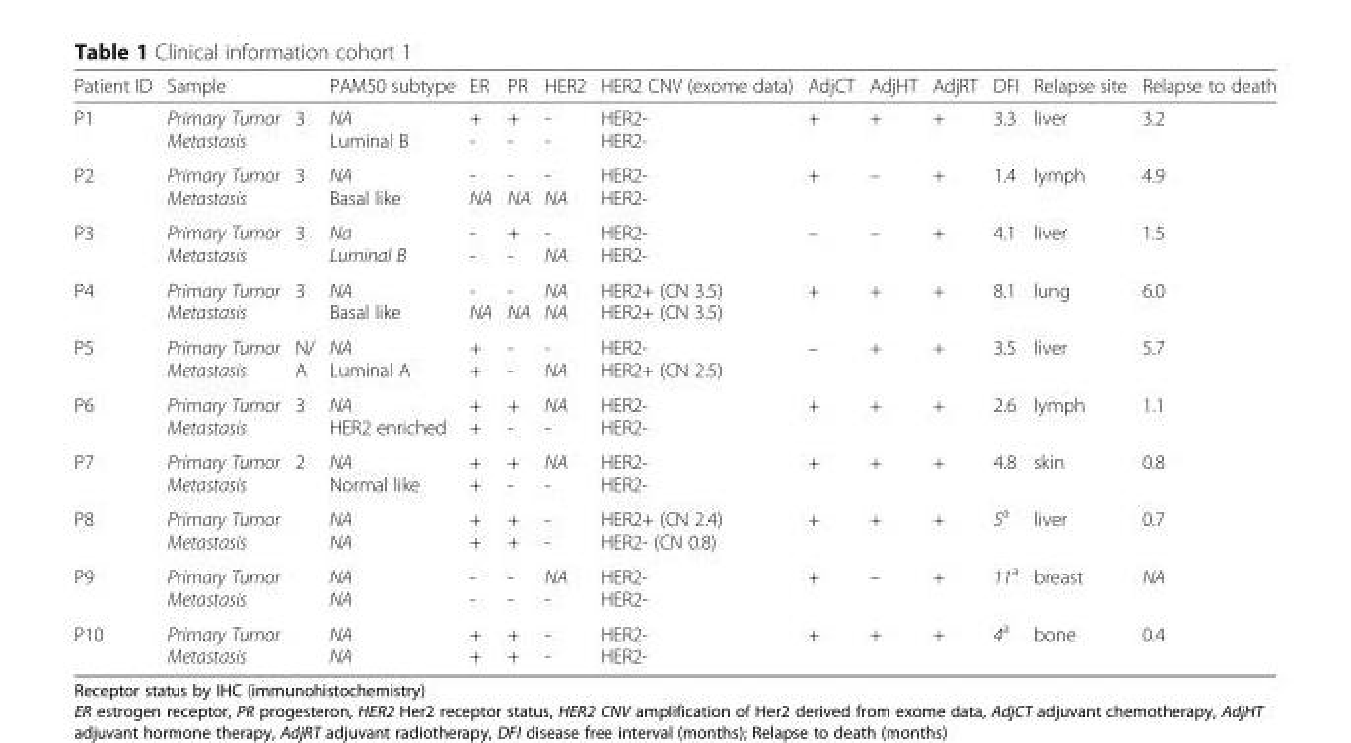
<table><thead><tr><td>Patient ID</td><td>Sample</td><td></td><td>PAM50 subtype</td><td>ER</td><td>PR</td><td>HER2</td><td>HER2 CNV (exome data)</td><td>AdjCT</td><td>AdjHT</td><td>AdjRT</td><td>DFI</td><td>Relapse site</td><td>Relapse to death</td></tr></thead><tbody><tr><td>P1</td><td>Primary Tumor Metastasis</td><td>3</td><td>NA Luminal B</td><td>+ -</td><td>+ -</td><td>- -</td><td>HER2- HER2-</td><td>+</td><td>+</td><td>+</td><td>3.3</td><td>liver</td><td>3.2</td></tr><tr><td>P2</td><td>Primary Tumor Metastasis</td><td>3</td><td>NA Basal like</td><td>- NA</td><td>- NA</td><td>- NA</td><td>HER2- HER2-</td><td>+</td><td>–</td><td>+</td><td>1.4</td><td>lymph</td><td>4.9</td></tr><tr><td>P3</td><td>Primary Tumor Metastasis</td><td>3</td><td>Na Luminal B</td><td>- -</td><td>+ -</td><td>- NA</td><td>HER2- HER2-</td><td>–</td><td>–</td><td>+</td><td>4.1</td><td>liver</td><td>1.5</td></tr><tr><td>P4</td><td>Primary Tumor Metastasis</td><td>3</td><td>NA Basal like</td><td>- NA</td><td>- NA</td><td>NA NA</td><td>HER2+ (CN 3.5) HER2+ (CN 3.5)</td><td>+</td><td>+</td><td>+</td><td>8.1</td><td>lung</td><td>6.0</td></tr><tr><td>P5</td><td>Primary Tumor Metastasis</td><td>N/ A</td><td>NA Luminal A</td><td>+ +</td><td>- -</td><td>- NA</td><td>HER2- HER2+ (CN 2.5)</td><td>–</td><td>+</td><td>+</td><td>3.5</td><td>liver</td><td>5.7</td></tr><tr><td>P6</td><td>Primary Tumor Metastasis</td><td>3</td><td>NA HER2 enriched</td><td>+ +</td><td>+ -</td><td>NA -</td><td>HER2- HER2-</td><td>+</td><td>+</td><td>+</td><td>2.6</td><td>lymph</td><td>1.1</td></tr><tr><td>P7</td><td>Primary Tumor Metastasis</td><td>2</td><td>NA Normal like</td><td>+ +</td><td>+ -</td><td>NA -</td><td>HER2- HER2-</td><td>+</td><td>+</td><td>+</td><td>4.8</td><td>skin</td><td>0.8</td></tr><tr><td>P8</td><td>Primary Tumor Metastasis</td><td></td><td>NA NA</td><td>+ +</td><td>+ +</td><td>- -</td><td>HER2+ (CN 2.4) HER2- (CN 0.8)</td><td>+</td><td>+</td><td>+</td><td>5<sup>a</sup></td><td>liver</td><td>0.7</td></tr><tr><td>P9</td><td>Primary Tumor Metastasis</td><td></td><td>NA NA</td><td>- -</td><td>- -</td><td>NA -</td><td>HER2- HER2-</td><td>+</td><td>–</td><td>+</td><td>11<sup>a</sup></td><td>breast</td><td>NA</td></tr><tr><td>P10</td><td>Primary Tumor Metastasis</td><td></td><td>NA NA</td><td>+ +</td><td>+ +</td><td>- -</td><td>HER2- HER2-</td><td>+</td><td>+</td><td>+</td><td>4<sup>a</sup></td><td>bone</td><td>0.4</td></tr></tbody></table>